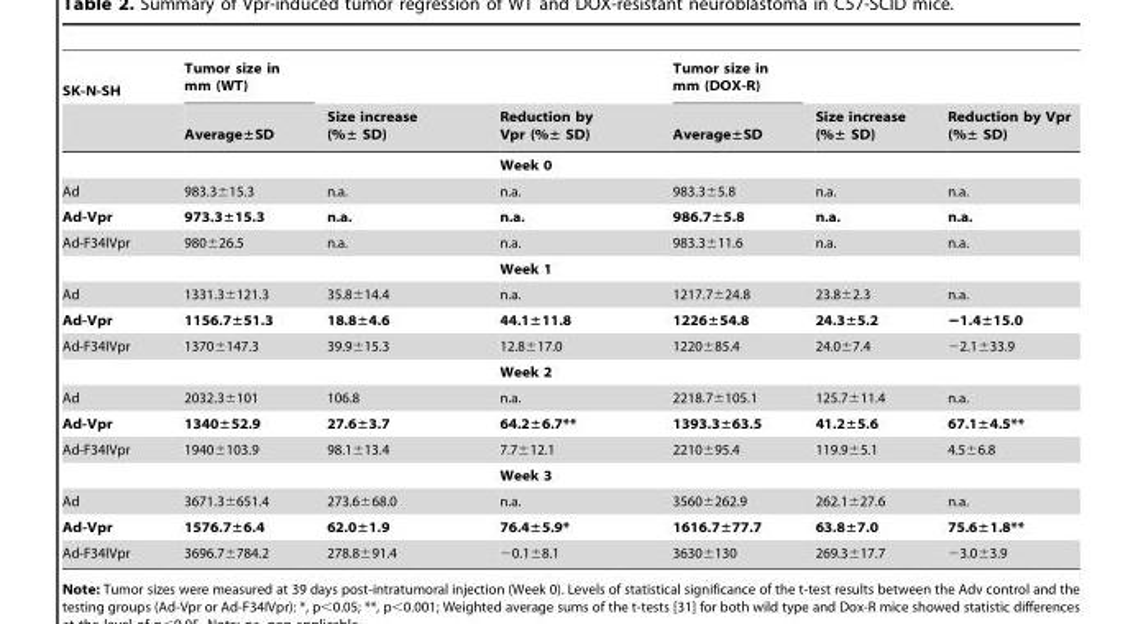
<table><thead><tr><td rowspan="2">SK-N-SH</td><td rowspan="2">Tumor size in mm (WT) Average±SD</td><td rowspan="2">Size increase (%± SD)</td><td rowspan="2">Reduction by Vpr (%± SD)</td><td rowspan="2">Tumor size in mm (DOX-R) Average±SD</td><td rowspan="2">Size increase (%± SD)</td><td rowspan="2">Reduction by Vpr (%± SD)</td></tr><tr></tr></thead><tbody><tr><td></td><td></td><td></td><td>Week 0</td><td></td><td></td><td></td></tr><tr><td>Ad</td><td>983.3±15.3</td><td>n.a.</td><td>n.a.</td><td>983.3±5.8</td><td>n.a.</td><td>n.a.</td></tr><tr><td>Ad-Vpr</td><td>973.3±15.3</td><td>n.a.</td><td>n.a.</td><td>986.7±5.8</td><td>n.a.</td><td>n.a.</td></tr><tr><td rowspan="2">Ad-F34IVpr</td><td>980±26.5</td><td>n.a.</td><td>n.a.</td><td>983.3±11.6</td><td>n.a.</td><td>n.a.</td></tr><tr><td></td><td></td><td>Week 1</td><td></td><td></td><td></td></tr><tr><td>Ad</td><td>1331.3±121.3</td><td>35.8±14.4</td><td>n.a.</td><td>1217.7±24.8</td><td>23.8±2.3</td><td>n.a.</td></tr><tr><td>Ad-Vpr</td><td>1156.7±51.3</td><td>18.8±4.6</td><td>44.1±11.8</td><td>1226±54.8</td><td>24.3±5.2</td><td>−1.4±15.0</td></tr><tr><td rowspan="2">Ad-F34IVpr</td><td>1370±147.3</td><td>39.9±15.3</td><td>12.8±17.0</td><td>1220±85.4</td><td>24.0±7.4</td><td>−2.1±33.9</td></tr><tr><td></td><td></td><td>Week 2</td><td></td><td></td><td></td></tr><tr><td>Ad</td><td>2032.3±101</td><td>106.8</td><td>n.a.</td><td>2218.7±105.1</td><td>125.7±11.4</td><td>n.a.</td></tr><tr><td>Ad-Vpr</td><td>1340±52.9</td><td>27.6±3.7</td><td>64.2±6.7**</td><td>1393.3±63.5</td><td>41.2±5.6</td><td>67.1±4.5**</td></tr><tr><td rowspan="2">Ad-F34IVpr</td><td>1940±103.9</td><td>98.1±13.4</td><td>7.7±12.1</td><td>2210±95.4</td><td>119.9±5.1</td><td>4.5±6.8</td></tr><tr><td></td><td></td><td>Week 3</td><td></td><td></td><td></td></tr><tr><td>Ad</td><td>3671.3±651.4</td><td>273.6±68.0</td><td>n.a.</td><td>3560±262.9</td><td>262.1±27.6</td><td>n.a.</td></tr><tr><td>Ad-Vpr</td><td>1576.7±6.4</td><td>62.0±1.9</td><td>76.4±5.9*</td><td>1616.7±77.7</td><td>63.8±7.0</td><td>75.6±1.8**</td></tr><tr><td>Ad-F34IVpr</td><td>3696.7±784.2</td><td>278.8±91.4</td><td>−0.1±8.1</td><td>3630±130</td><td>269.3±17.7</td><td>−3.0±3.9</td></tr></tbody></table>